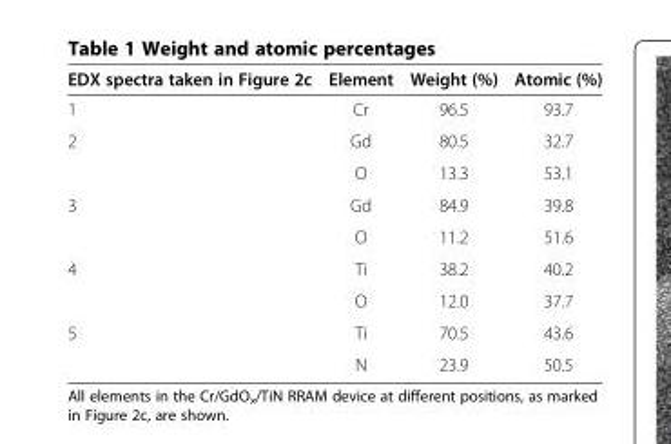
<table><thead><tr><td>EDX spectra taken in Figure 2c</td><td>Element</td><td>Weight (%)</td><td>Atomic (%)</td></tr></thead><tbody><tr><td>1</td><td>Cr</td><td>96.5</td><td>93.7</td></tr><tr><td rowspan="2">2</td><td>Gd</td><td>80.5</td><td>32.7</td></tr><tr><td>O</td><td>13.3</td><td>53.1</td></tr><tr><td rowspan="2">3</td><td>Gd</td><td>84.9</td><td>39.8</td></tr><tr><td>O</td><td>11.2</td><td>51.6</td></tr><tr><td rowspan="2">4</td><td>Ti</td><td>38.2</td><td>40.2</td></tr><tr><td>O</td><td>12.0</td><td>37.7</td></tr><tr><td rowspan="2">5</td><td>Ti</td><td>70.5</td><td>43.6</td></tr><tr><td>N</td><td>23.9</td><td>50.5</td></tr></tbody></table>